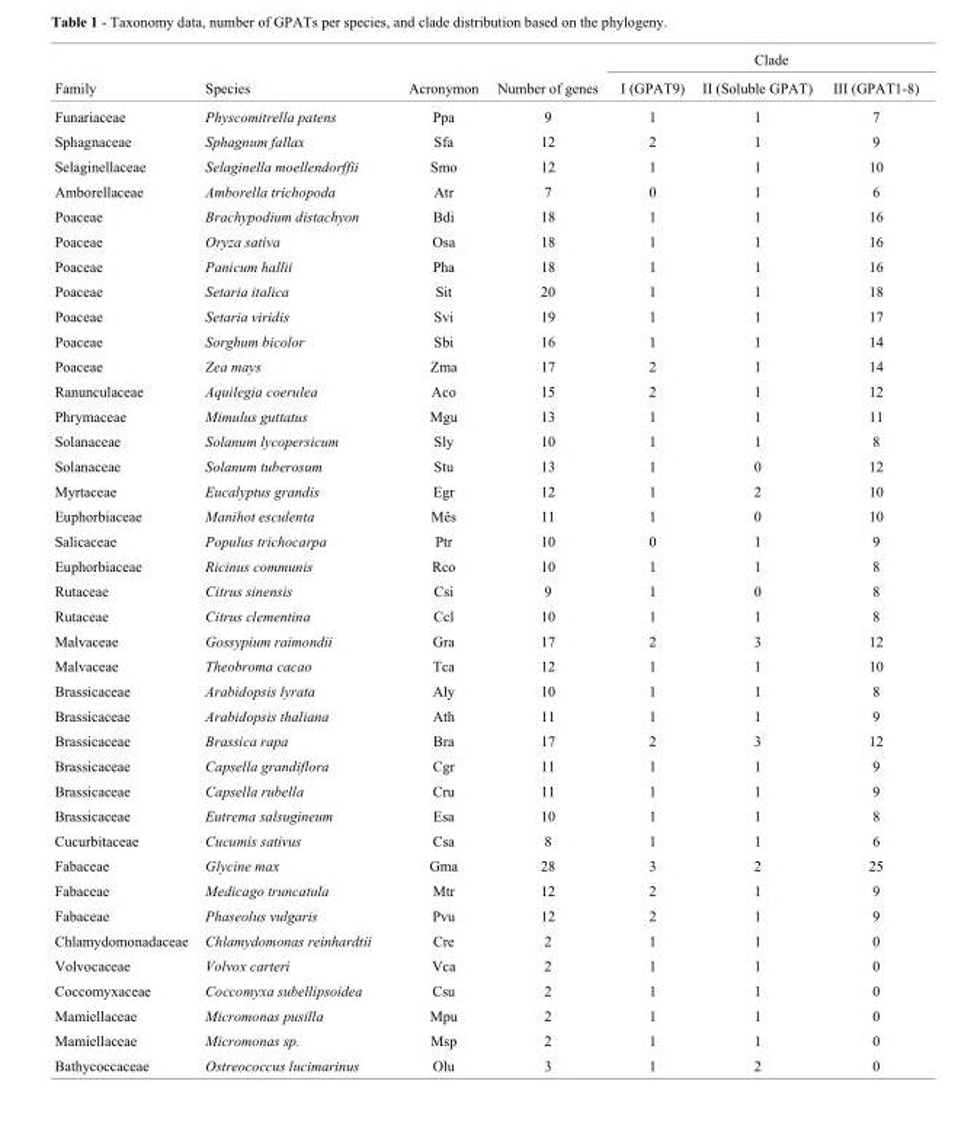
<table><thead><tr><td rowspan="2">Family</td><td rowspan="2">Species</td><td rowspan="2">Acronymon</td><td rowspan="2">Number of genes</td><td colspan="3">Clade</td></tr><tr><td>I (GPAT9)</td><td>II (Soluble GPAT)</td><td>III (GPAT1-8)</td></tr></thead><tbody><tr><td>Funariaceae</td><td>Physcomitrella patens</td><td>Ppa</td><td>9</td><td>1</td><td>1</td><td>7</td></tr><tr><td>Sphagnaceae</td><td>Sphagnum fallax</td><td>Sfa</td><td>12</td><td>2</td><td>1</td><td>9</td></tr><tr><td>Selaginellaceae</td><td>Selaginella moellendorffii</td><td>Smo</td><td>12</td><td>1</td><td>1</td><td>10</td></tr><tr><td>Amborellaceae</td><td>Amborella trichopoda</td><td>Atr</td><td>7</td><td>0</td><td>1</td><td>6</td></tr><tr><td>Poaceae</td><td>Brachypodium distachyon</td><td>Bdi</td><td>18</td><td>1</td><td>1</td><td>16</td></tr><tr><td>Poaceae</td><td>Oryza sativa</td><td>Osa</td><td>18</td><td>1</td><td>1</td><td>16</td></tr><tr><td>Poaceae</td><td>Panicum hallii</td><td>Pha</td><td>18</td><td>1</td><td>1</td><td>16</td></tr><tr><td>Poaceae</td><td>Setaria italica</td><td>Sit</td><td>20</td><td>1</td><td>1</td><td>18</td></tr><tr><td>Poaceae</td><td>Setaria viridis</td><td>Svi</td><td>19</td><td>1</td><td>1</td><td>17</td></tr><tr><td>Poaceae</td><td>Sorghum bicolor</td><td>Sbi</td><td>16</td><td>1</td><td>1</td><td>14</td></tr><tr><td>Poaceae</td><td>Zea mays</td><td>Zma</td><td>17</td><td>2</td><td>1</td><td>14</td></tr><tr><td>Ranunculaceae</td><td>Aquilegia coerulea</td><td>Aco</td><td>15</td><td>2</td><td>1</td><td>12</td></tr><tr><td>Phrymaceae</td><td>Mimulus guttatus</td><td>Mgu</td><td>13</td><td>1</td><td>1</td><td>11</td></tr><tr><td>Solanaceae</td><td>Solanum lycopersicum</td><td>Sly</td><td>10</td><td>1</td><td>1</td><td>8</td></tr><tr><td>Solanaceae</td><td>Solanum tuberosum</td><td>Stu</td><td>13</td><td>1</td><td>0</td><td>12</td></tr><tr><td>Myrtaceae</td><td>Eucalyptus grandis</td><td>Egr</td><td>12</td><td>1</td><td>2</td><td>10</td></tr><tr><td>Euphorbiaceae</td><td>Manihot esculenta</td><td>Mês</td><td>11</td><td>1</td><td>0</td><td>10</td></tr><tr><td>Salicaceae</td><td>Populus trichocarpa</td><td>Ptr</td><td>10</td><td>0</td><td>1</td><td>9</td></tr><tr><td>Euphorbiaceae</td><td>Ricinus communis</td><td>Rco</td><td>10</td><td>1</td><td>1</td><td>8</td></tr><tr><td>Rutaceae</td><td>Citrus sinensis</td><td>Csi</td><td>9</td><td>1</td><td>0</td><td>8</td></tr><tr><td>Rutaceae</td><td>Citrus clementina</td><td>Ccl</td><td>10</td><td>1</td><td>1</td><td>8</td></tr><tr><td>Malvaceae</td><td>Gossypium raimondii</td><td>Gra</td><td>17</td><td>2</td><td>3</td><td>12</td></tr><tr><td>Malvaceae</td><td>Theobroma cacao</td><td>Tca</td><td>12</td><td>1</td><td>1</td><td>10</td></tr><tr><td>Brassicaceae</td><td>Arabidopsis lyrata</td><td>Aly</td><td>10</td><td>1</td><td>1</td><td>8</td></tr><tr><td>Brassicaceae</td><td>Arabidopsis thaliana</td><td>Ath</td><td>11</td><td>1</td><td>1</td><td>9</td></tr><tr><td>Brassicaceae</td><td>Brassica rapa</td><td>Bra</td><td>17</td><td>2</td><td>3</td><td>12</td></tr><tr><td>Brassicaceae</td><td>Capsella grandiflora</td><td>Cgr</td><td>11</td><td>1</td><td>1</td><td>9</td></tr><tr><td>Brassicaceae</td><td>Capsella rubella</td><td>Cru</td><td>11</td><td>1</td><td>1</td><td>9</td></tr><tr><td>Brassicaceae</td><td>Eutrema salsugineum</td><td>Esa</td><td>10</td><td>1</td><td>1</td><td>8</td></tr><tr><td>Cucurbitaceae</td><td>Cucumis sativus</td><td>Csa</td><td>8</td><td>1</td><td>1</td><td>6</td></tr><tr><td>Fabaceae</td><td>Glycine max</td><td>Gma</td><td>28</td><td>3</td><td>2</td><td>25</td></tr><tr><td>Fabaceae</td><td>Medicago truncatula</td><td>Mtr</td><td>12</td><td>2</td><td>1</td><td>9</td></tr><tr><td>Fabaceae</td><td>Phaseolus vulgaris</td><td>Pvu</td><td>12</td><td>2</td><td>1</td><td>9</td></tr><tr><td>Chlamydomonadaceae</td><td>Chlamydomonas reinhardtii</td><td>Cre</td><td>2</td><td>1</td><td>1</td><td>0</td></tr><tr><td>Volvocaceae</td><td>Volvox carteri</td><td>Vca</td><td>2</td><td>1</td><td>1</td><td>0</td></tr><tr><td>Coccomyxaceae</td><td>Coccomyxa subellipsoidea</td><td>Csu</td><td>2</td><td>1</td><td>1</td><td>0</td></tr><tr><td>Mamiellaceae</td><td>Micromonas pusilla</td><td>Mpu</td><td>2</td><td>1</td><td>1</td><td>0</td></tr><tr><td>Mamiellaceae</td><td>Micromonas sp.</td><td>Msp</td><td>2</td><td>1</td><td>1</td><td>0</td></tr><tr><td>Bathycoccaceae</td><td>Ostreococcus lucimarinus</td><td>Olu</td><td>3</td><td>1</td><td>2</td><td>0</td></tr></tbody></table>